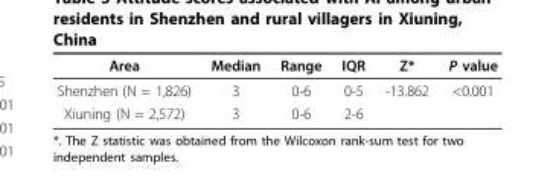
<table><thead><tr><td>Area</td><td>Median</td><td>Range</td><td>IQR</td><td>Z*</td><td>P value</td></tr></thead><tbody><tr><td>Shenzhen (N = 1,826)</td><td>3</td><td>0-6</td><td>0-5</td><td>-13.862</td><td>&lt;0.001</td></tr><tr><td>Xiuning (N = 2,572)</td><td>3</td><td>0-6</td><td>2-6</td><td></td><td></td></tr></tbody></table>